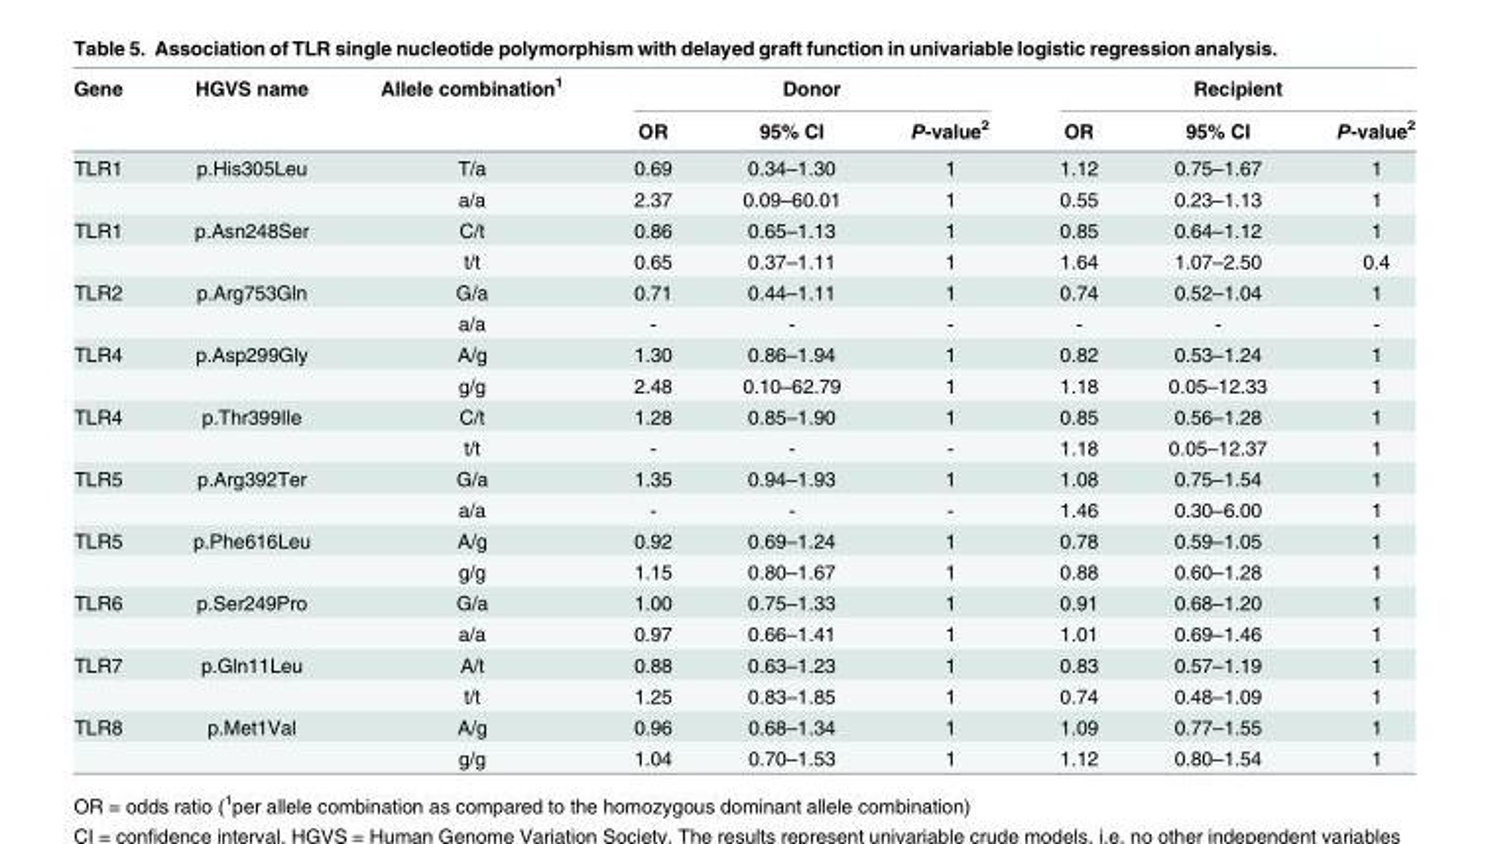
<table><thead><tr><td rowspan="2">Gene</td><td rowspan="2">HGVS name</td><td rowspan="2">Allele combination<sup>1</sup></td><td colspan="3">Donor</td><td colspan="3">Recipient</td></tr><tr><td>OR</td><td>95% CI</td><td>P-value<sup>2</sup></td><td>OR</td><td>95% CI</td><td>P-value<sup>2</sup></td></tr></thead><tbody><tr><td rowspan="2">TLR1</td><td>p.His305Leu</td><td>T/a</td><td>0.69</td><td>0.34–1.30</td><td>1</td><td>1.12</td><td>0.75–1.67</td><td>1</td></tr><tr><td></td><td>a/a</td><td>2.37</td><td>0.09–60.01</td><td>1</td><td>0.55</td><td>0.23–1.13</td><td>1</td></tr><tr><td rowspan="2">TLR1</td><td>p.Asn248Ser</td><td>C/t</td><td>0.86</td><td>0.65–1.13</td><td>1</td><td>0.85</td><td>0.64–1.12</td><td>1</td></tr><tr><td></td><td>t/t</td><td>0.65</td><td>0.37–1.11</td><td>1</td><td>1.64</td><td>1.07–2.50</td><td>0.4</td></tr><tr><td rowspan="2">TLR2</td><td>p.Arg753Gln</td><td>G/a</td><td>0.71</td><td>0.44–1.11</td><td>1</td><td>0.74</td><td>0.52–1.04</td><td>1</td></tr><tr><td></td><td>a/a</td><td>-</td><td>-</td><td>-</td><td>-</td><td>-</td><td>-</td></tr><tr><td rowspan="2">TLR4</td><td>p.Asp299Gly</td><td>A/g</td><td>1.30</td><td>0.86–1.94</td><td>1</td><td>0.82</td><td>0.53–1.24</td><td>1</td></tr><tr><td></td><td>g/g</td><td>2.48</td><td>0.10–62.79</td><td>1</td><td>1.18</td><td>0.05–12.33</td><td>1</td></tr><tr><td rowspan="2">TLR4</td><td>p.Thr399Ile</td><td>C/t</td><td>1.28</td><td>0.85–1.90</td><td>1</td><td>0.85</td><td>0.56–1.28</td><td>1</td></tr><tr><td></td><td>t/t</td><td>-</td><td>-</td><td>-</td><td>1.18</td><td>0.05–12.37</td><td>1</td></tr><tr><td rowspan="2">TLR5</td><td>p.Arg392Ter</td><td>G/a</td><td>1.35</td><td>0.94–1.93</td><td>1</td><td>1.08</td><td>0.75–1.54</td><td>1</td></tr><tr><td></td><td>a/a</td><td>-</td><td>-</td><td>-</td><td>1.46</td><td>0.30–6.00</td><td>1</td></tr><tr><td rowspan="2">TLR5</td><td>p.Phe616Leu</td><td>A/g</td><td>0.92</td><td>0.69–1.24</td><td>1</td><td>0.78</td><td>0.59–1.05</td><td>1</td></tr><tr><td></td><td>g/g</td><td>1.15</td><td>0.80–1.67</td><td>1</td><td>0.88</td><td>0.60–1.28</td><td>1</td></tr><tr><td rowspan="2">TLR6</td><td>p.Ser249Pro</td><td>G/a</td><td>1.00</td><td>0.75–1.33</td><td>1</td><td>0.91</td><td>0.68–1.20</td><td>1</td></tr><tr><td></td><td>a/a</td><td>0.97</td><td>0.66–1.41</td><td>1</td><td>1.01</td><td>0.69–1.46</td><td>1</td></tr><tr><td rowspan="2">TLR7</td><td>p.Gln11Leu</td><td>A/t</td><td>0.88</td><td>0.63–1.23</td><td>1</td><td>0.83</td><td>0.57–1.19</td><td>1</td></tr><tr><td></td><td>t/t</td><td>1.25</td><td>0.83–1.85</td><td>1</td><td>0.74</td><td>0.48–1.09</td><td>1</td></tr><tr><td rowspan="2">TLR8</td><td>p.Met1Val</td><td>A/g</td><td>0.96</td><td>0.68–1.34</td><td>1</td><td>1.09</td><td>0.77–1.55</td><td>1</td></tr><tr><td></td><td>g/g</td><td>1.04</td><td>0.70–1.53</td><td>1</td><td>1.12</td><td>0.80–1.54</td><td>1</td></tr></tbody></table>